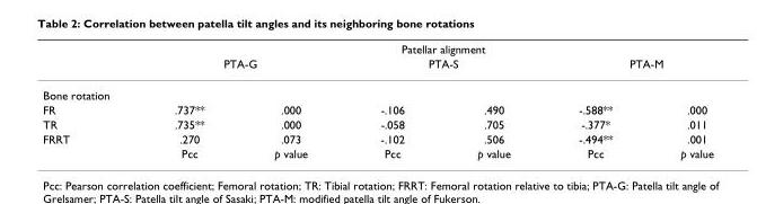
<table><thead><tr><td rowspan="3">Bone rotation</td><td colspan="6">Patellar alignment</td></tr><tr><td colspan="2">PTA-G</td><td colspan="2">PTA-S</td><td colspan="2">PTA-M</td></tr><tr><td></td><td></td><td></td><td></td><td></td><td></td></tr></thead><tbody><tr><td>FR</td><td>.737**</td><td>.000</td><td>-.106</td><td>.490</td><td>-.588**</td><td>.000</td></tr><tr><td>TR</td><td>.735**</td><td>.000</td><td>-.058</td><td>.705</td><td>-.377*</td><td>.011</td></tr><tr><td rowspan="2">FRRT</td><td>.270</td><td>.073</td><td>-.102</td><td>.506</td><td>-.494**</td><td>.001</td></tr><tr><td>Pcc</td><td>p value</td><td>Pcc</td><td>p value</td><td>Pcc</td><td>p value</td></tr></tbody></table>